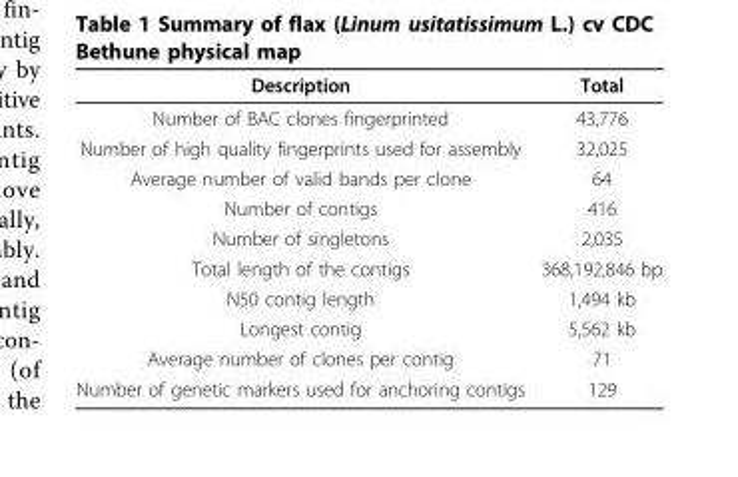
<table><thead><tr><td>Description</td><td>Total</td></tr></thead><tbody><tr><td>Number of BAC clones fingerprinted</td><td>43,776</td></tr><tr><td>Number of high quality fingerprints used for assembly</td><td>32,025</td></tr><tr><td>Average number of valid bands per clone</td><td>64</td></tr><tr><td>Number of contigs</td><td>416</td></tr><tr><td>Number of singletons</td><td>2,035</td></tr><tr><td>Total length of the contigs</td><td>368,192,846 bp</td></tr><tr><td>N50 contig length</td><td>1,494 kb</td></tr><tr><td>Longest contig</td><td>5,562 kb</td></tr><tr><td>Average number of clones per contig</td><td>71</td></tr><tr><td>Number of genetic markers used for anchoring contigs</td><td>129</td></tr></tbody></table>